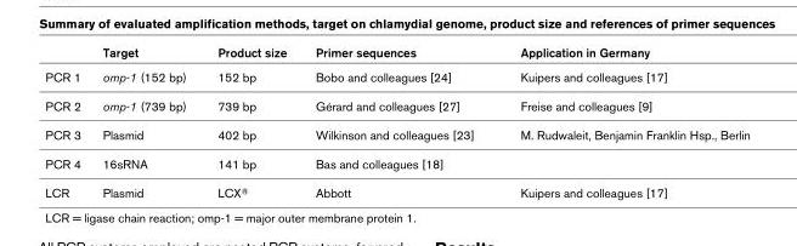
<table><thead><tr><td></td><td>Target</td><td>Product size</td><td>Primer sequences</td><td>Application in Germany</td></tr></thead><tbody><tr><td>PCR 1</td><td>omp-1 (152 bp)</td><td>152 bp</td><td>Bobo and colleagues [24]</td><td>Kuipers and colleagues [17]</td></tr><tr><td>PCR 2</td><td>omp-1 (739 bp)</td><td>739 bp</td><td>Gérard and colleagues [27]</td><td>Freise and colleagues [9]</td></tr><tr><td>PCR 3</td><td>Plasmid</td><td>402 bp</td><td>Wilkinson and colleagues [23]</td><td>M. Rudwaleit, Benjamin Franklin Hsp., Berlin</td></tr><tr><td>PCR 4</td><td>16sRNA</td><td>141 bp</td><td>Bas and colleagues [18]</td><td></td></tr><tr><td>LCR</td><td>Plasmid</td><td>LCX<sup>®</sup></td><td>Abbott</td><td>Kuipers and colleagues [17]</td></tr></tbody></table>